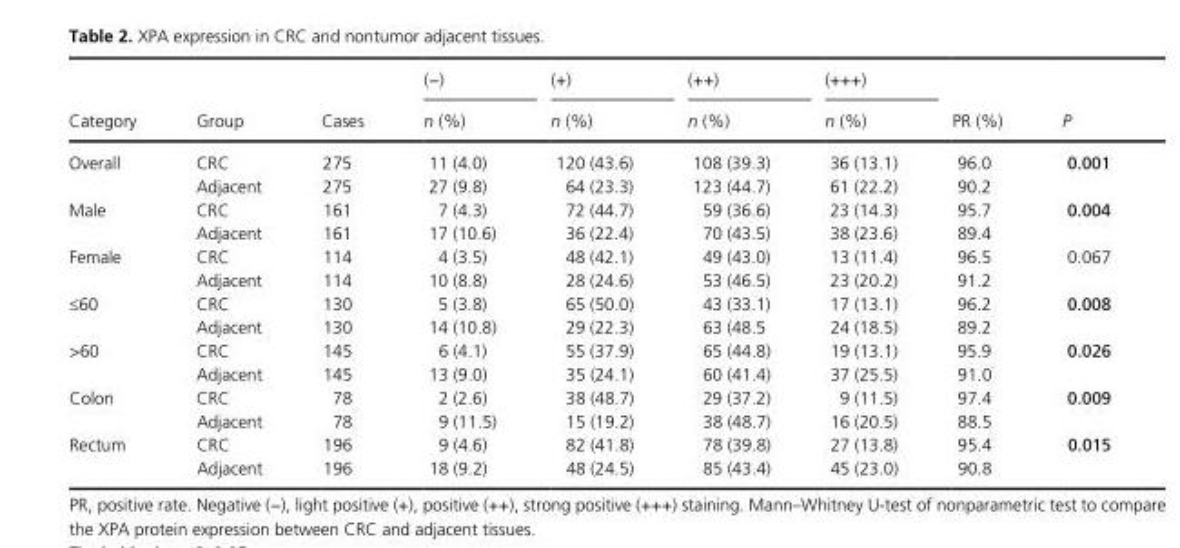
<table><thead><tr><td rowspan="2">Category</td><td rowspan="2">Group</td><td rowspan="2">Cases</td><td rowspan="2">(−) n (%)</td><td rowspan="2">(+) n (%)</td><td rowspan="2">(++) n (%)</td><td rowspan="2">(+++) n (%)</td><td rowspan="2">PR (%)</td><td rowspan="2">P</td></tr><tr></tr></thead><tbody><tr><td rowspan="2">Overall</td><td>CRC</td><td>275</td><td>11 (4.0)</td><td>120 (43.6)</td><td>108 (39.3)</td><td>36 (13.1)</td><td>96.0</td><td rowspan="2">0.001</td></tr><tr><td>Adjacent</td><td>275</td><td>27 (9.8)</td><td>64 (23.3)</td><td>123 (44.7)</td><td>61 (22.2)</td><td>90.2</td></tr><tr><td rowspan="2">Male</td><td>CRC</td><td>161</td><td>7 (4.3)</td><td>72 (44.7)</td><td>59 (36.6)</td><td>23 (14.3)</td><td>95.7</td><td rowspan="2">0.004</td></tr><tr><td>Adjacent</td><td>161</td><td>17 (10.6)</td><td>36 (22.4)</td><td>70 (43.5)</td><td>38 (23.6)</td><td>89.4</td></tr><tr><td rowspan="2">Female</td><td>CRC</td><td>114</td><td>4 (3.5)</td><td>48 (42.1)</td><td>49 (43.0)</td><td>13 (11.4)</td><td>96.5</td><td rowspan="2">0.067</td></tr><tr><td>Adjacent</td><td>114</td><td>10 (8.8)</td><td>28 (24.6)</td><td>53 (46.5)</td><td>23 (20.2)</td><td>91.2</td></tr><tr><td rowspan="2">≤60</td><td>CRC</td><td>130</td><td>5 (3.8)</td><td>65 (50.0)</td><td>43 (33.1)</td><td>17 (13.1)</td><td>96.2</td><td rowspan="2">0.008</td></tr><tr><td>Adjacent</td><td>130</td><td>14 (10.8)</td><td>29 (22.3)</td><td>63 (48.5</td><td>24 (18.5)</td><td>89.2</td></tr><tr><td rowspan="2">&gt;60</td><td>CRC</td><td>145</td><td>6 (4.1)</td><td>55 (37.9)</td><td>65 (44.8)</td><td>19 (13.1)</td><td>95.9</td><td rowspan="2">0.026</td></tr><tr><td>Adjacent</td><td>145</td><td>13 (9.0)</td><td>35 (24.1)</td><td>60 (41.4)</td><td>37 (25.5)</td><td>91.0</td></tr><tr><td rowspan="2">Colon</td><td>CRC</td><td>78</td><td>2 (2.6)</td><td>38 (48.7)</td><td>29 (37.2)</td><td>9 (11.5)</td><td>97.4</td><td rowspan="2">0.009</td></tr><tr><td>Adjacent</td><td>78</td><td>9 (11.5)</td><td>15 (19.2)</td><td>38 (48.7)</td><td>16 (20.5)</td><td>88.5</td></tr><tr><td rowspan="2">Rectum</td><td>CRC</td><td>196</td><td>9 (4.6)</td><td>82 (41.8)</td><td>78 (39.8)</td><td>27 (13.8)</td><td>95.4</td><td rowspan="2">0.015</td></tr><tr><td>Adjacent</td><td>196</td><td>18 (9.2)</td><td>48 (24.5)</td><td>85 (43.4)</td><td>45 (23.0)</td><td>90.8</td></tr></tbody></table>